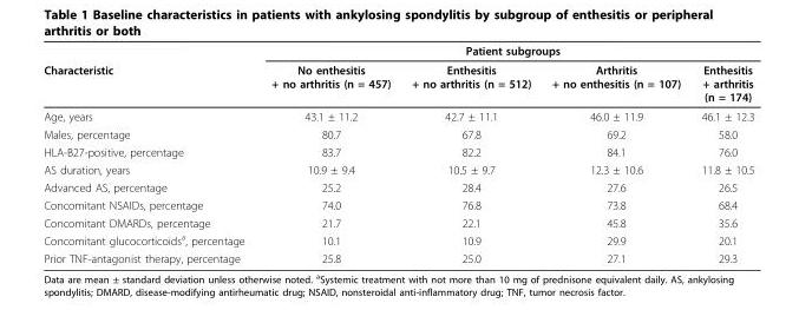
<table><thead><tr><td rowspan="2">Characteristic</td><td colspan="4">Patient subgroups</td></tr><tr><td>No enthesitis + no arthritis (n = 457)</td><td>Enthesitis + no arthritis (n = 512)</td><td>Arthritis + no enthesitis (n = 107)</td><td>Enthesitis + arthritis (n = 174)</td></tr></thead><tbody><tr><td>Age, years</td><td>43.1 ± 11.2</td><td>42.7 ± 11.1</td><td>46.0 ± 11.9</td><td>46.1 ± 12.3</td></tr><tr><td>Males, percentage</td><td>80.7</td><td>67.8</td><td>69.2</td><td>58.0</td></tr><tr><td>HLA-B27-positive, percentage</td><td>83.7</td><td>82.2</td><td>84.1</td><td>76.0</td></tr><tr><td>AS duration, years</td><td>10.9 ± 9.4</td><td>10.5 ± 9.7</td><td>12.3 ± 10.6</td><td>11.8 ± 10.5</td></tr><tr><td>Advanced AS, percentage</td><td>25.2</td><td>28.4</td><td>27.6</td><td>26.5</td></tr><tr><td>Concomitant NSAIDs, percentage</td><td>74.0</td><td>76.8</td><td>73.8</td><td>68.4</td></tr><tr><td>Concomitant DMARDs, percentage</td><td>21.7</td><td>22.1</td><td>45.8</td><td>35.6</td></tr><tr><td>Concomitant glucocorticoids<sup>a</sup>, percentage</td><td>10.1</td><td>10.9</td><td>29.9</td><td>20.1</td></tr><tr><td>Prior TNF-antagonist therapy, percentage</td><td>25.8</td><td>25.0</td><td>27.1</td><td>29.3</td></tr></tbody></table>